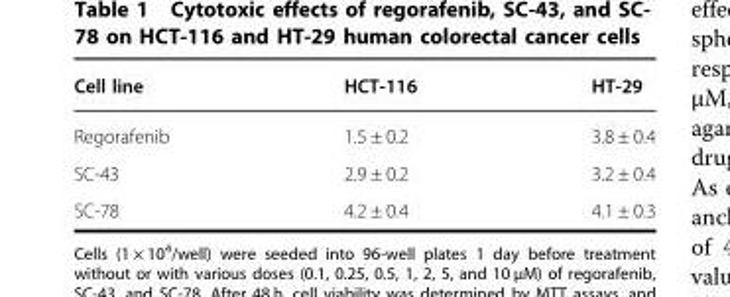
<table><thead><tr><td>Cell line</td><td>HCT-116</td><td>HT-29</td></tr></thead><tbody><tr><td>Regorafenib</td><td>1.5 ± 0.2</td><td>3.8 ± 0.4</td></tr><tr><td>SC-43</td><td>2.9 ± 0.2</td><td>3.2 ± 0.4</td></tr><tr><td>SC-78</td><td>4.2 ± 0.4</td><td>4.1 ± 0.3</td></tr></tbody></table>